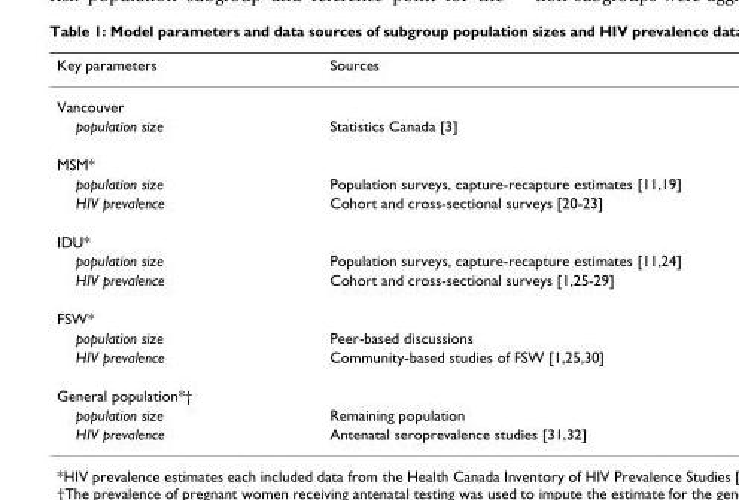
<table><thead><tr><td>Key parameters</td><td>Sources</td></tr></thead><tbody><tr><td colspan="2">Vancouver</td></tr><tr><td>population size</td><td>Statistics Canada [3]</td></tr><tr><td colspan="2">MSM*</td></tr><tr><td>population size</td><td>Population surveys, capture-recapture estimates [11,19]</td></tr><tr><td>HIV prevalence</td><td>Cohort and cross-sectional surveys [20-23]</td></tr><tr><td colspan="2">IDU*</td></tr><tr><td>population size</td><td>Population surveys, capture-recapture estimates [11,24]</td></tr><tr><td>HIV prevalence</td><td>Cohort and cross-sectional surveys [1,25-29]</td></tr><tr><td colspan="2">FSW*</td></tr><tr><td>population size</td><td>Peer-based discussions</td></tr><tr><td>HIV prevalence</td><td>Community-based studies of FSW [1,25,30]</td></tr><tr><td colspan="2">General population*†</td></tr><tr><td>population size</td><td>Remaining population</td></tr><tr><td>HIV prevalence</td><td>Antenatal seroprevalence studies [31,32]</td></tr></tbody></table>